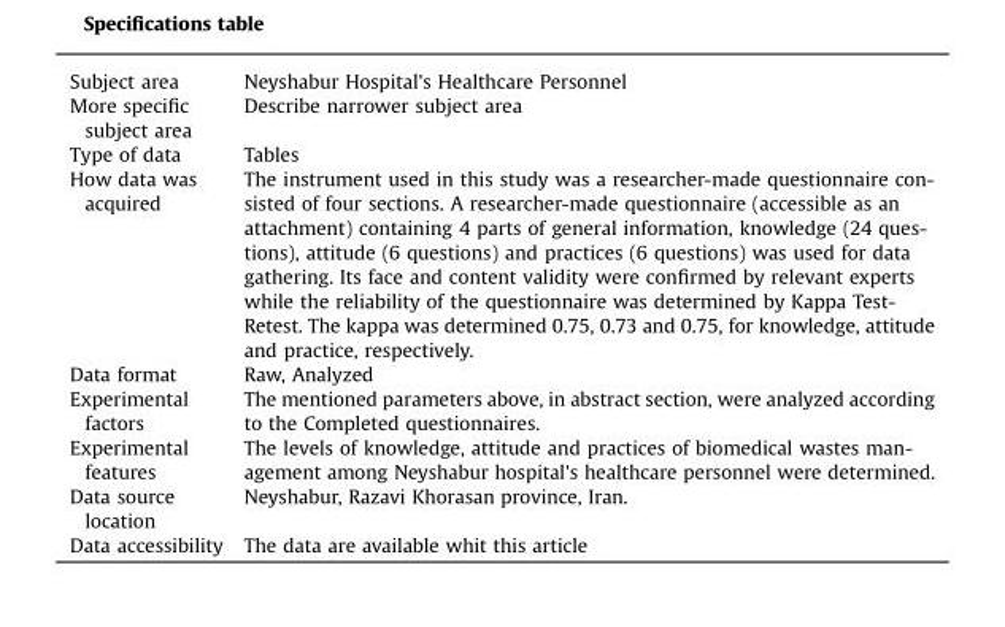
<table><tbody><tr><td>Subject area</td><td>Neyshabur Hospital&#x27;s Healthcare Personnel</td></tr><tr><td>More specific subject area</td><td>Describe narrower subject area</td></tr><tr><td>Type of data</td><td>Tables</td></tr><tr><td>How data was acquired</td><td>The instrument used in this study was a researcher-made questionnaire con- sisted of four sections. A researcher-made questionnaire (accessible as an attachment) containing 4 parts of general information, knowledge (24 ques- tions), attitude (6 questions) and practices (6 questions) was used for data gathering. Its face and content validity were confirmed by relevant experts while the reliability of the questionnaire was determined by Kappa Test- Retest. The kappa was determined 0.75, 0.73 and 0.75, for knowledge, attitude and practice, respectively.</td></tr><tr><td>Data format</td><td>Raw, Analyzed</td></tr><tr><td>Experimental factors</td><td>The mentioned parameters above, in abstract section, were analyzed according to the Completed questionnaires.</td></tr><tr><td>Experimental features</td><td>The levels of knowledge, attitude and practices of biomedical wastes man- agement among Neyshabur hospital&#x27;s healthcare personnel were determined.</td></tr><tr><td>Data source location</td><td>Neyshabur, Razavi Khorasan province, Iran.</td></tr><tr><td>Data accessibility</td><td>The data are available whit this article</td></tr></tbody></table>